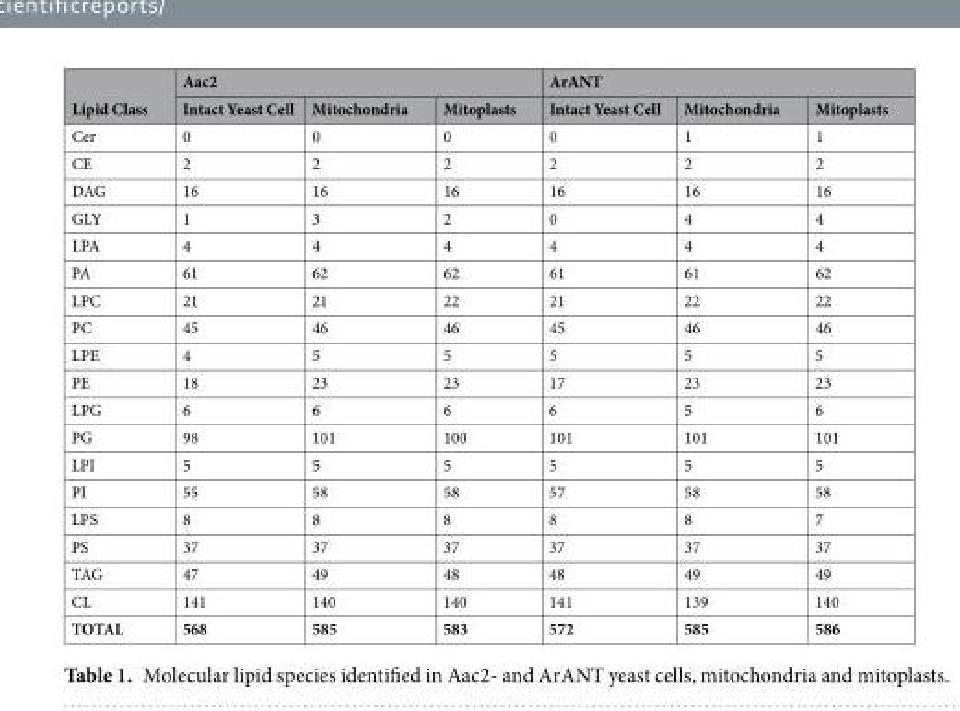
<table><thead><tr><td rowspan="2">Lipid Class</td><td colspan="3">Aac2</td><td colspan="3">ArANT</td></tr><tr><td>Intact Yeast Cell</td><td>Mitochondria</td><td>Mitoplasts</td><td>Intact Yeast Cell</td><td>Mitochondria</td><td>Mitoplasts</td></tr></thead><tbody><tr><td>Cer</td><td>0</td><td>0</td><td>0</td><td>0</td><td>1</td><td>1</td></tr><tr><td>CE</td><td>2</td><td>2</td><td>2</td><td>2</td><td>2</td><td>2</td></tr><tr><td>DAG</td><td>16</td><td>16</td><td>16</td><td>16</td><td>16</td><td>16</td></tr><tr><td>GLY</td><td>1</td><td>3</td><td>2</td><td>0</td><td>4</td><td>4</td></tr><tr><td>LPA</td><td>4</td><td>4</td><td>4</td><td>4</td><td>4</td><td>4</td></tr><tr><td>PA</td><td>61</td><td>62</td><td>62</td><td>61</td><td>61</td><td>62</td></tr><tr><td>LPC</td><td>21</td><td>21</td><td>22</td><td>21</td><td>22</td><td>22</td></tr><tr><td>PC</td><td>45</td><td>46</td><td>46</td><td>45</td><td>46</td><td>46</td></tr><tr><td>LPE</td><td>4</td><td>5</td><td>5</td><td>5</td><td>5</td><td>5</td></tr><tr><td>PE</td><td>18</td><td>23</td><td>23</td><td>17</td><td>23</td><td>23</td></tr><tr><td>LPG</td><td>6</td><td>6</td><td>6</td><td>6</td><td>5</td><td>6</td></tr><tr><td>PG</td><td>98</td><td>101</td><td>100</td><td>101</td><td>101</td><td>101</td></tr><tr><td>LPI</td><td>5</td><td>5</td><td>5</td><td>5</td><td>5</td><td>5</td></tr><tr><td>PI</td><td>55</td><td>58</td><td>58</td><td>57</td><td>58</td><td>58</td></tr><tr><td>LPS</td><td>8</td><td>8</td><td>8</td><td>8</td><td>8</td><td>7</td></tr><tr><td>PS</td><td>37</td><td>37</td><td>37</td><td>37</td><td>37</td><td>37</td></tr><tr><td>TAG</td><td>47</td><td>49</td><td>48</td><td>48</td><td>49</td><td>49</td></tr><tr><td>CL</td><td>141</td><td>140</td><td>140</td><td>141</td><td>139</td><td>140</td></tr><tr><td>TOTAL</td><td>568</td><td>585</td><td>583</td><td>572</td><td>585</td><td>586</td></tr></tbody></table>